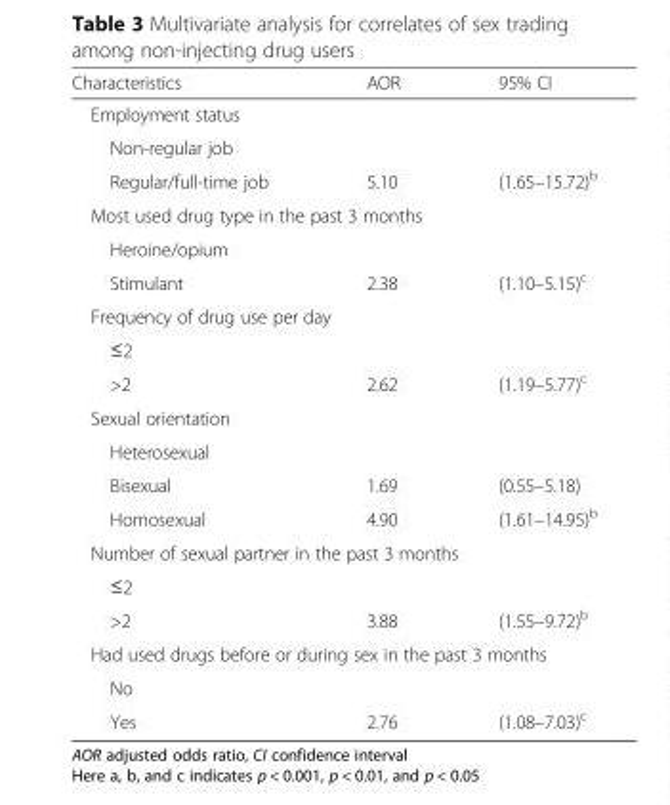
<table><thead><tr><td>Characteristics</td><td>AOR</td><td>95% CI</td></tr></thead><tbody><tr><td colspan="3">Employment status</td></tr><tr><td colspan="3">Non-regular job</td></tr><tr><td>Regular/full-time job</td><td>5.10</td><td>(1.65–15.72)<sup>b</sup></td></tr><tr><td colspan="3">Most used drug type in the past 3 months</td></tr><tr><td colspan="3">Heroine/opium</td></tr><tr><td>Stimulant</td><td>2.38</td><td>(1.10–5.15)<sup>c</sup></td></tr><tr><td colspan="3">Frequency of drug use per day</td></tr><tr><td colspan="3">≤2</td></tr><tr><td>&gt;2</td><td>2.62</td><td>(1.19–5.77)<sup>c</sup></td></tr><tr><td colspan="3">Sexual orientation</td></tr><tr><td colspan="3">Heterosexual</td></tr><tr><td>Bisexual</td><td>1.69</td><td>(0.55–5.18)</td></tr><tr><td>Homosexual</td><td>4.90</td><td>(1.61–14.95)<sup>b</sup></td></tr><tr><td colspan="3">Number of sexual partner in the past 3 months</td></tr><tr><td colspan="3">≤2</td></tr><tr><td>&gt;2</td><td>3.88</td><td>(1.55–9.72)<sup>b</sup></td></tr><tr><td colspan="3">Had used drugs before or during sex in the past 3 months</td></tr><tr><td colspan="3">No</td></tr><tr><td>Yes</td><td>2.76</td><td>(1.08–7.03)<sup>c</sup></td></tr></tbody></table>